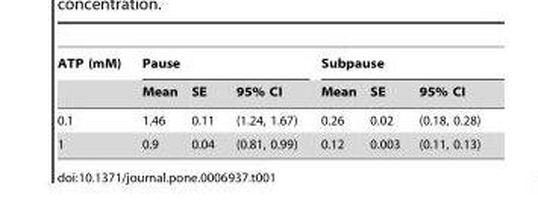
<table><thead><tr><td rowspan="2">ATP (mM)</td><td colspan="3">Pause</td><td colspan="3">Subpause</td></tr><tr><td>Mean</td><td>SE</td><td>95% CI</td><td>Mean</td><td>SE</td><td>95% CI</td></tr></thead><tbody><tr><td>0.1</td><td>1.46</td><td>0.11</td><td>(1.24, 1.67)</td><td>0.26</td><td>0.02</td><td>(0.18, 0.28)</td></tr><tr><td>1</td><td>0.9</td><td>0.04</td><td>(0.81, 0.99)</td><td>0.12</td><td>0.003</td><td>(0.11, 0.13)</td></tr></tbody></table>